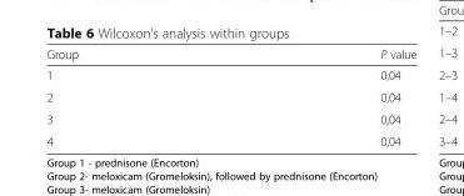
<table><thead><tr><td>Group</td><td>P value</td></tr></thead><tbody><tr><td>1</td><td>0,04</td></tr><tr><td>2</td><td>0,04</td></tr><tr><td>3</td><td>0,04</td></tr><tr><td>4</td><td>0,04</td></tr></tbody></table>